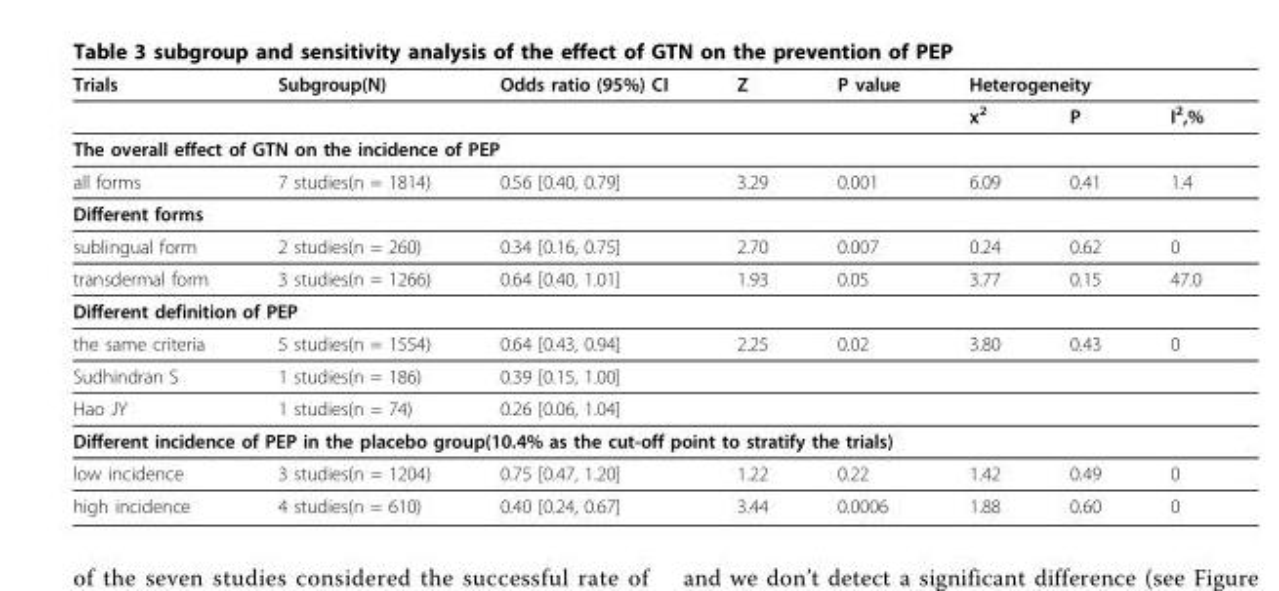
<table><thead><tr><td rowspan="2">Trials</td><td rowspan="2">Subgroup(N)</td><td rowspan="2">Odds ratio (95%) CI</td><td rowspan="2">Z</td><td rowspan="2">P value</td><td colspan="3">Heterogeneity</td></tr><tr><td>x<sup>2</sup></td><td>P</td><td>I<sup>2</sup>,%</td></tr></thead><tbody><tr><td colspan="8">The overall effect of GTN on the incidence of PEP</td></tr><tr><td>all forms</td><td>7 studies(n = 1814)</td><td>0.56 [0.40, 0.79]</td><td>3.29</td><td>0.001</td><td>6.09</td><td>0.41</td><td>1.4</td></tr><tr><td colspan="8">Different forms</td></tr><tr><td>sublingual form</td><td>2 studies(n = 260)</td><td>0.34 [0.16, 0.75]</td><td>2.70</td><td>0.007</td><td>0.24</td><td>0.62</td><td>0</td></tr><tr><td>transdermal form</td><td>3 studies(n = 1266)</td><td>0.64 [0.40, 1.01]</td><td>1.93</td><td>0.05</td><td>3.77</td><td>0.15</td><td>47.0</td></tr><tr><td colspan="8">Different definition of PEP</td></tr><tr><td>the same criteria</td><td>5 studies(n = 1554)</td><td>0.64 [0.43, 0.94]</td><td>2.25</td><td>0.02</td><td>3.80</td><td>0.43</td><td>0</td></tr><tr><td>Sudhindran S</td><td>1 studies(n = 186)</td><td>0.39 [0.15, 1.00]</td><td></td><td></td><td></td><td></td><td></td></tr><tr><td>Hao JY</td><td>1 studies(n = 74)</td><td>0.26 [0.06, 1.04]</td><td></td><td></td><td></td><td></td><td></td></tr><tr><td colspan="8">Different incidence of PEP in the placebo group(10.4% as the cut-off point to stratify the trials)</td></tr><tr><td>low incidence</td><td>3 studies(n = 1204)</td><td>0.75 [0.47, 1.20]</td><td>1.22</td><td>0.22</td><td>1.42</td><td>0.49</td><td>0</td></tr><tr><td>high incidence</td><td>4 studies(n = 610)</td><td>0.40 [0.24, 0.67]</td><td>3.44</td><td>0.0006</td><td>1.88</td><td>0.60</td><td>0</td></tr></tbody></table>